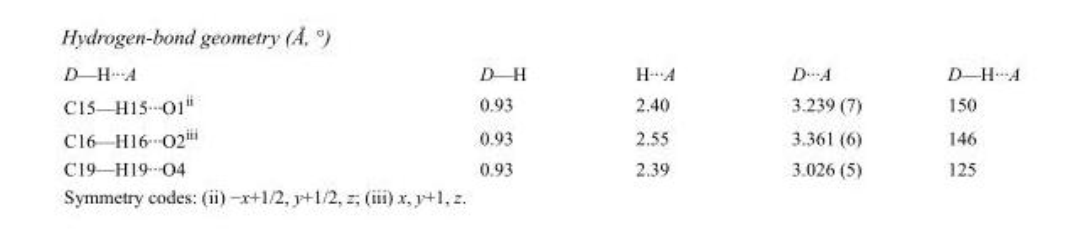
<table><tbody><tr><td>D—H···A</td><td>D—H</td><td>H···A</td><td>D···A</td><td>D—H···A</td></tr><tr><td>C15—H15···O1<sup>ii</sup></td><td>0.93</td><td>2.40</td><td>3.239 (7)</td><td>150</td></tr><tr><td>C16—H16···O2<sup>iii</sup></td><td>0.93</td><td>2.55</td><td>3.361 (6)</td><td>146</td></tr><tr><td>C19—H19···O4</td><td>0.93</td><td>2.39</td><td>3.026 (5)</td><td>125</td></tr></tbody></table>